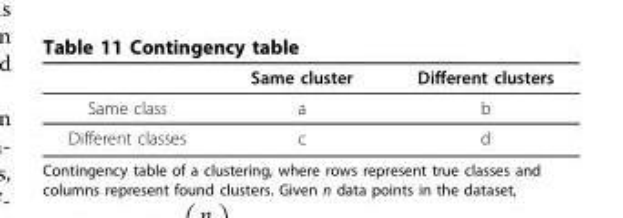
<table><thead><tr><td></td><td>Same cluster</td><td>Different clusters</td></tr></thead><tbody><tr><td>Same class</td><td>a</td><td>b</td></tr><tr><td>Different classes</td><td>c</td><td>d</td></tr></tbody></table>